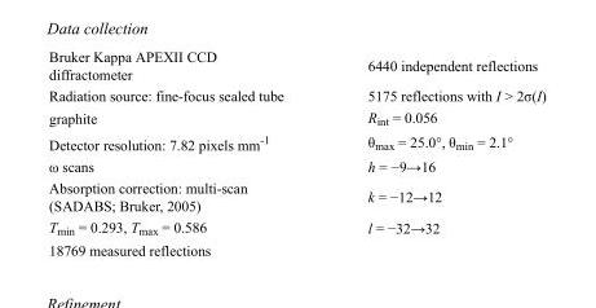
<table><tbody><tr><td>Bruker Kappa APEXII CCD diffractometer</td><td>6440 independent reflections</td></tr><tr><td>Radiation source: fine-focus sealed tube</td><td>5175 reflections with I &gt; 2σ(I)</td></tr><tr><td>graphite</td><td>R<sub>int</sub> = 0.056</td></tr><tr><td>Detector resolution: 7.82 pixels mm<sup>-1</sup></td><td>θ<sub>max</sub> = 25.0°, θ<sub>min</sub> = 2.1°</td></tr><tr><td>ω scans</td><td>h = −9→16</td></tr><tr><td>Absorption correction: multi-scan (SADABS; Bruker, 2005)</td><td>k = −12→12</td></tr><tr><td>T<sub>min</sub> = 0.293, T<sub>max</sub> = 0.586</td><td>l = −32→32</td></tr><tr><td>18769 measured reflections</td><td></td></tr></tbody></table>